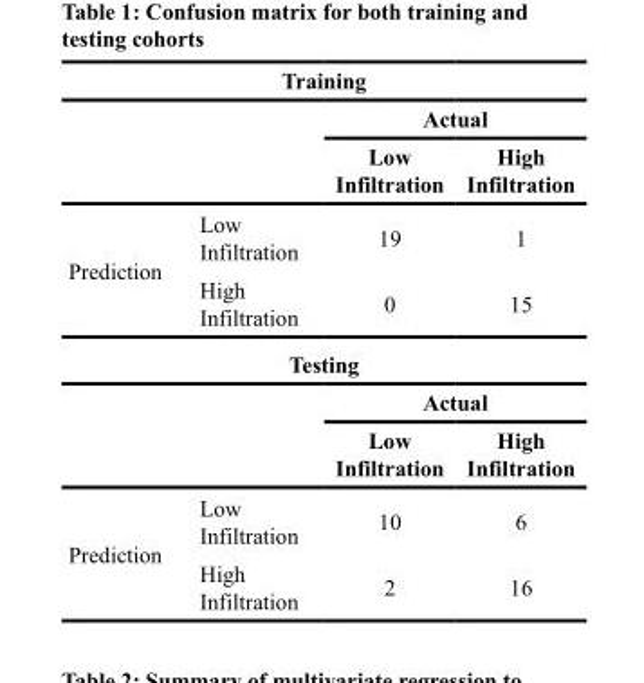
<table><thead><tr><td colspan="4">Training</td></tr><tr><td rowspan="2"></td><td rowspan="2"></td><td colspan="2">Actual</td></tr><tr><td>Low Infiltration</td><td>High Infiltration</td></tr></thead><tbody><tr><td rowspan="2">Prediction</td><td>Low Infiltration</td><td>19</td><td>1</td></tr><tr><td>High Infiltration</td><td>0</td><td>15</td></tr><tr><td colspan="4">Testing</td></tr><tr><td rowspan="2"></td><td rowspan="2"></td><td colspan="2">Actual</td></tr><tr><td>Low Infiltration</td><td>High Infiltration</td></tr><tr><td rowspan="2">Prediction</td><td>Low Infiltration</td><td>10</td><td>6</td></tr><tr><td>High Infiltration</td><td>2</td><td>16</td></tr></tbody></table>